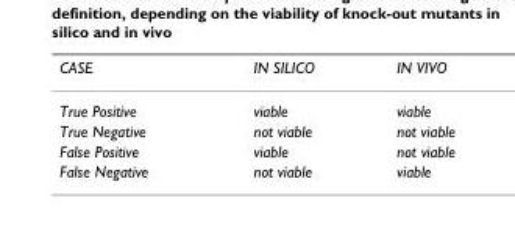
<table><thead><tr><td>CASE</td><td>IN SILICO</td><td>IN VIVO</td></tr></thead><tbody><tr><td>True Positive</td><td>viable</td><td>viable</td></tr><tr><td>True Negative</td><td>not viable</td><td>not viable</td></tr><tr><td>False Positive</td><td>viable</td><td>not viable</td></tr><tr><td>False Negative</td><td>not viable</td><td>viable</td></tr></tbody></table>